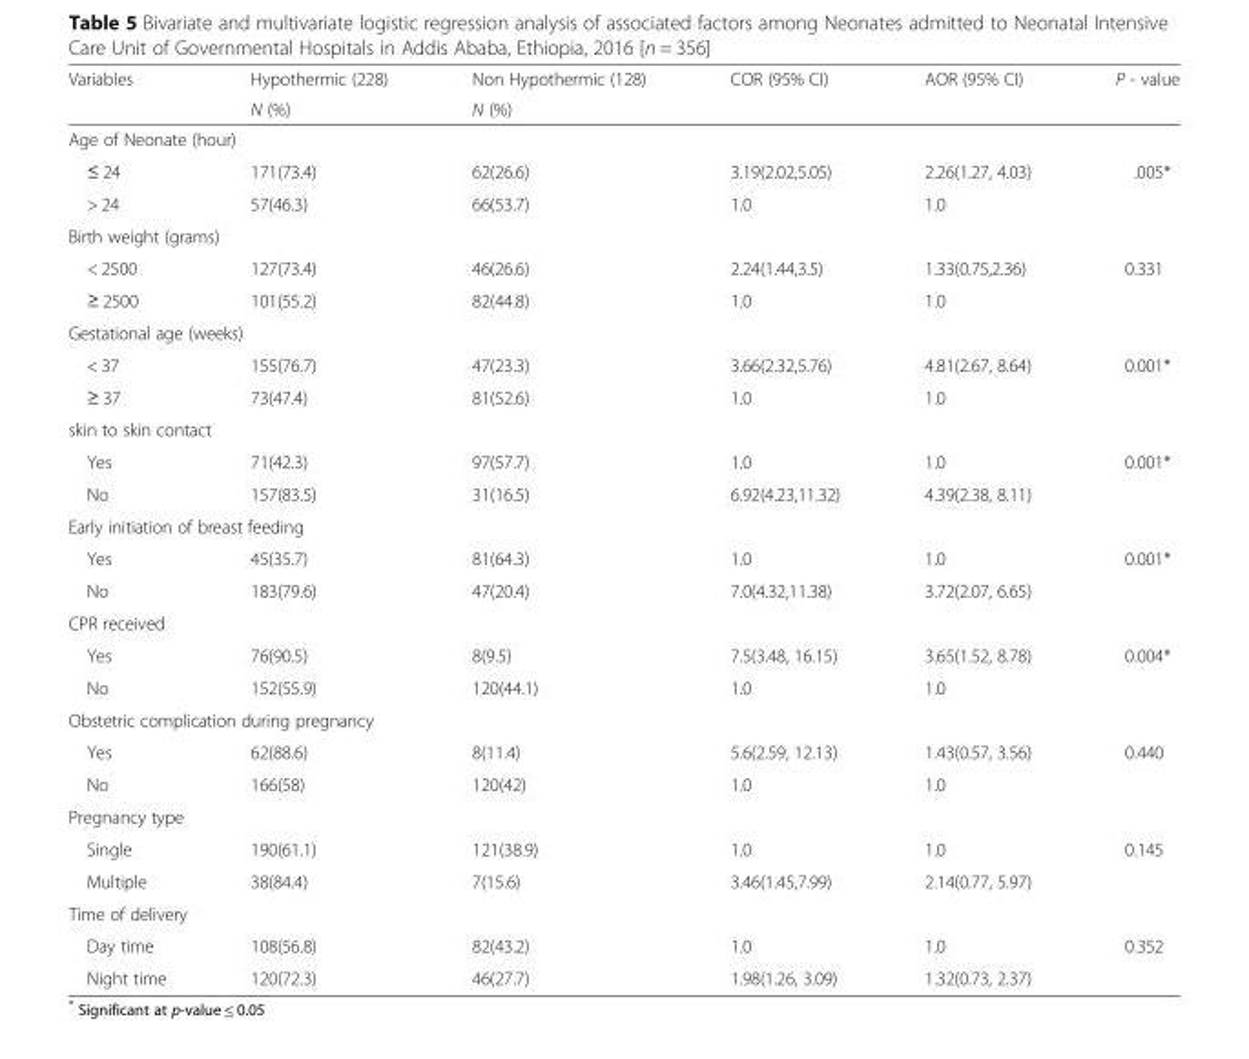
<table><thead><tr><td rowspan="2">Variables</td><td rowspan="2">Hypothermic (228) N (%)</td><td rowspan="2">Non Hypothermic (128) N (%)</td><td rowspan="2">COR (95% CI)</td><td rowspan="2">AOR (95% CI)</td><td rowspan="2">P - value</td></tr><tr></tr></thead><tbody><tr><td colspan="6">Age of Neonate (hour)</td></tr><tr><td>≤ 24</td><td>171(73.4)</td><td>62(26.6)</td><td>3.19(2.02,5.05)</td><td>2.26(1.27, 4.03)</td><td rowspan="2">.005*</td></tr><tr><td>&gt; 24</td><td>57(46.3)</td><td>66(53.7)</td><td>1.0</td><td>1.0</td></tr><tr><td colspan="6">Birth weight (grams)</td></tr><tr><td>&lt; 2500</td><td>127(73.4)</td><td>46(26.6)</td><td>2.24(1.44,3.5)</td><td>1.33(0.75,2.36)</td><td rowspan="2">0.331</td></tr><tr><td>≥ 2500</td><td>101(55.2)</td><td>82(44.8)</td><td>1.0</td><td>1.0</td></tr><tr><td colspan="6">Gestational age (weeks)</td></tr><tr><td>&lt; 37</td><td>155(76.7)</td><td>47(23.3)</td><td>3.66(2.32,5.76)</td><td>4.81(2.67, 8.64)</td><td rowspan="2">0.001*</td></tr><tr><td>≥ 37</td><td>73(47.4)</td><td>81(52.6)</td><td>1.0</td><td>1.0</td></tr><tr><td colspan="6">skin to skin contact</td></tr><tr><td>Yes</td><td>71(42.3)</td><td>97(57.7)</td><td>1.0</td><td>1.0</td><td rowspan="2">0.001*</td></tr><tr><td>No</td><td>157(83.5)</td><td>31(16.5)</td><td>6.92(4.23,11.32)</td><td>4.39(2.38, 8.11)</td></tr><tr><td colspan="6">Early initiation of breast feeding</td></tr><tr><td>Yes</td><td>45(35.7)</td><td>81(64.3)</td><td>1.0</td><td>1.0</td><td rowspan="2">0.001*</td></tr><tr><td>No</td><td>183(79.6)</td><td>47(20.4)</td><td>7.0(4.32,11.38)</td><td>3.72(2.07, 6.65)</td></tr><tr><td colspan="6">CPR received</td></tr><tr><td>Yes</td><td>76(90.5)</td><td>8(9.5)</td><td>7.5(3.48, 16.15)</td><td>3.65(1.52, 8.78)</td><td rowspan="2">0.004*</td></tr><tr><td>No</td><td>152(55.9)</td><td>120(44.1)</td><td>1.0</td><td>1.0</td></tr><tr><td colspan="6">Obstetric complication during pregnancy</td></tr><tr><td>Yes</td><td>62(88.6)</td><td>8(11.4)</td><td>5.6(2.59, 12.13)</td><td>1.43(0.57, 3.56)</td><td rowspan="2">0.440</td></tr><tr><td>No</td><td>166(58)</td><td>120(42)</td><td>1.0</td><td>1.0</td></tr><tr><td colspan="6">Pregnancy type</td></tr><tr><td>Single</td><td>190(61.1)</td><td>121(38.9)</td><td>1.0</td><td>1.0</td><td rowspan="2">0.145</td></tr><tr><td>Multiple</td><td>38(84.4)</td><td>7(15.6)</td><td>3.46(1.45,7.99)</td><td>2.14(0.77, 5.97)</td></tr><tr><td colspan="6">Time of delivery</td></tr><tr><td>Day time</td><td>108(56.8)</td><td>82(43.2)</td><td>1.0</td><td>1.0</td><td rowspan="2">0.352</td></tr><tr><td>Night time</td><td>120(72.3)</td><td>46(27.7)</td><td>1.98(1.26, 3.09)</td><td>1.32(0.73, 2.37)</td></tr></tbody></table>